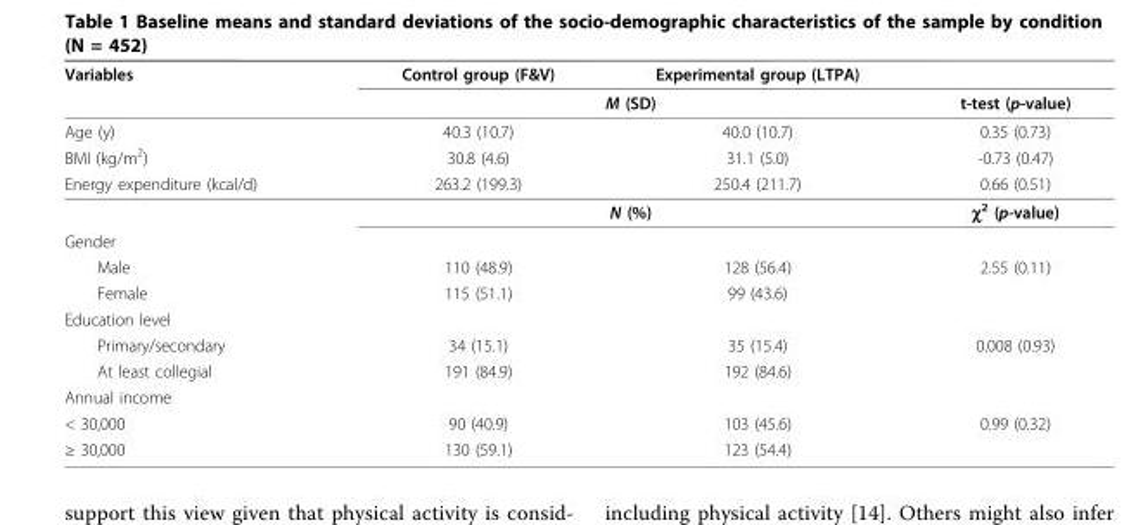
<table><thead><tr><td rowspan="2">Variables</td><td>Control group (F&amp;V)</td><td>Experimental group (LTPA)</td><td rowspan="2">t-test (p-value)</td></tr><tr><td colspan="2">M (SD)</td></tr></thead><tbody><tr><td>Age (y)</td><td>40.3 (10.7)</td><td>40.0 (10.7)</td><td>0.35 (0.73)</td></tr><tr><td>BMI (kg/m<sup>2</sup>)</td><td>30.8 (4.6)</td><td>31.1 (5.0)</td><td>-0.73 (0.47)</td></tr><tr><td rowspan="2">Energy expenditure (kcal/d)</td><td>263.2 (199.3)</td><td>250.4 (211.7)</td><td>0.66 (0.51)</td></tr><tr><td colspan="2">N (%)</td><td>χ<sup>2</sup> (p-value)</td></tr><tr><td colspan="4">Gender</td></tr><tr><td>Male</td><td>110 (48.9)</td><td>128 (56.4)</td><td>2.55 (0.11)</td></tr><tr><td>Female</td><td>115 (51.1)</td><td>99 (43.6)</td><td></td></tr><tr><td colspan="4">Education level</td></tr><tr><td>Primary/secondary</td><td>34 (15.1)</td><td>35 (15.4)</td><td>0.008 (0.93)</td></tr><tr><td>At least collegial</td><td>191 (84.9)</td><td>192 (84.6)</td><td></td></tr><tr><td colspan="4">Annual income</td></tr><tr><td>&lt; 30,000</td><td>90 (40.9)</td><td>103 (45.6)</td><td>0.99 (0.32)</td></tr><tr><td>≥ 30,000</td><td>130 (59.1)</td><td>123 (54.4)</td><td></td></tr></tbody></table>